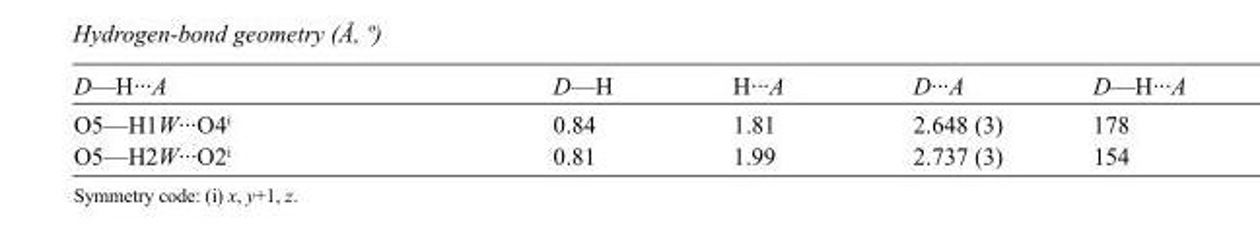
<table><tbody><tr><td>D—H···A</td><td>D—H</td><td>H···A</td><td>D···A</td><td>D—H···A</td></tr><tr><td>O5—H1W···O4<sup>i</sup></td><td>0.84</td><td>1.81</td><td>2.648 (3)</td><td>178</td></tr><tr><td>O5—H2W···O2<sup>i</sup></td><td>0.81</td><td>1.99</td><td>2.737 (3)</td><td>154</td></tr></tbody></table>